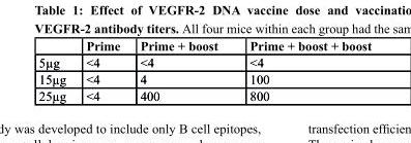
<table><thead><tr><td></td><td>Prime</td><td>Prime + boost</td><td>Prime + boost + boost</td></tr></thead><tbody><tr><td>5µg</td><td>&lt;4</td><td>&lt;4</td><td>&lt;4</td></tr><tr><td>15µg</td><td>&lt;4</td><td>4</td><td>100</td></tr><tr><td>25µg</td><td>&lt;4</td><td>400</td><td>800</td></tr></tbody></table>